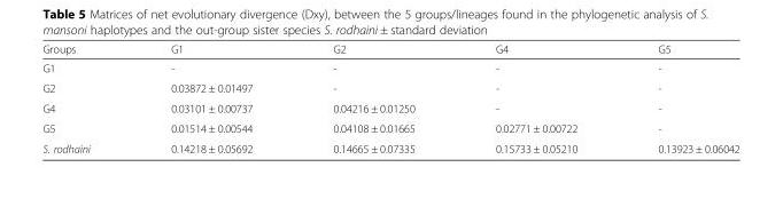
<table><thead><tr><td>Groups</td><td>G1</td><td>G2</td><td>G4</td><td>G5</td></tr></thead><tbody><tr><td>G1</td><td>-</td><td>-</td><td>-</td><td>-</td></tr><tr><td>G2</td><td>0.03872 ± 0.01497</td><td>-</td><td>-</td><td>-</td></tr><tr><td>G4</td><td>0.03101 ± 0.00737</td><td>0.04216 ± 0.01250</td><td>-</td><td>-</td></tr><tr><td>G5</td><td>0.01514 ± 0.00544</td><td>0.04108 ± 0.01665</td><td>0.02771 ± 0.00722</td><td>-</td></tr><tr><td>S. rodhaini</td><td>0.14218 ± 0.05692</td><td>0.14665 ± 0.07335</td><td>0.15733 ± 0.05210</td><td>0.13923 ± 0.06042</td></tr></tbody></table>